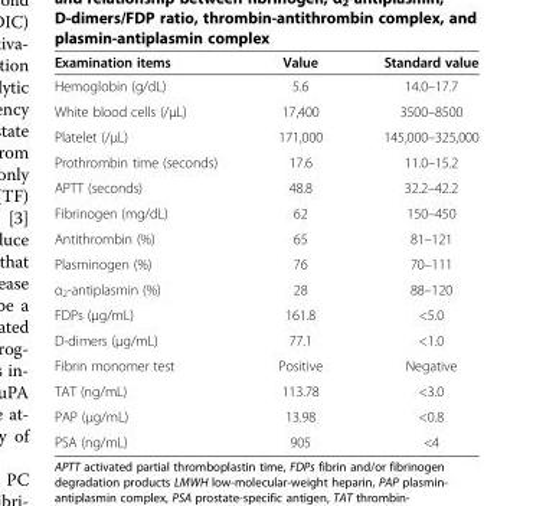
<table><thead><tr><td>Examination items</td><td>Value</td><td>Standard value</td></tr></thead><tbody><tr><td>Hemoglobin (g/dL)</td><td>5.6</td><td>14.0–17.7</td></tr><tr><td>White blood cells (/μL)</td><td>17,400</td><td>3500–8500</td></tr><tr><td>Platelet (/μL)</td><td>171,000</td><td>145,000–325,000</td></tr><tr><td>Prothrombin time (seconds)</td><td>17.6</td><td>11.0–15.2</td></tr><tr><td>APTT (seconds)</td><td>48.8</td><td>32.2–42.2</td></tr><tr><td>Fibrinogen (mg/dL)</td><td>62</td><td>150–450</td></tr><tr><td>Antithrombin (%)</td><td>65</td><td>81–121</td></tr><tr><td>Plasminogen (%)</td><td>76</td><td>70–111</td></tr><tr><td>α<sub>2</sub>-antiplasmin (%)</td><td>28</td><td>88–120</td></tr><tr><td>FDPs (μg/mL)</td><td>161.8</td><td>&lt;5.0</td></tr><tr><td>D-dimers (μg/mL)</td><td>77.1</td><td>&lt;1.0</td></tr><tr><td>Fibrin monomer test</td><td>Positive</td><td>Negative</td></tr><tr><td>TAT (ng/mL)</td><td>113.78</td><td>&lt;3.0</td></tr><tr><td>PAP (μg/mL)</td><td>13.98</td><td>&lt;0.8</td></tr><tr><td>PSA (ng/mL)</td><td>905</td><td>&lt;4</td></tr></tbody></table>